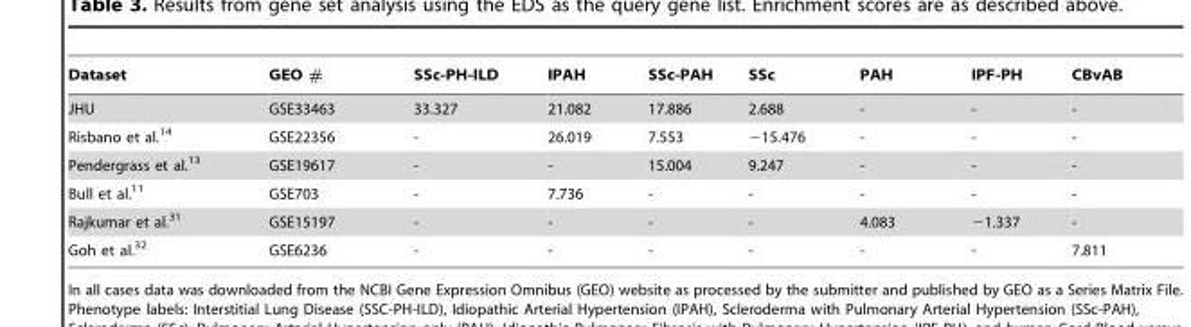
<table><thead><tr><td>Dataset</td><td>GEO #</td><td>SSc-PH-ILD</td><td>IPAH</td><td>SSc-PAH</td><td>SSc</td><td>PAH</td><td>IPF-PH</td><td>CBvAB</td></tr></thead><tbody><tr><td>JHU</td><td>GSE33463</td><td>33.327</td><td>21.082</td><td>17.886</td><td>2.688</td><td>-</td><td>-</td><td>-</td></tr><tr><td>Risbano et al.<sup>14</sup></td><td>GSE22356</td><td>-</td><td>26.019</td><td>7.553</td><td>−15.476</td><td>-</td><td>-</td><td>-</td></tr><tr><td>Pendergrass et al.<sup>13</sup></td><td>GSE19617</td><td>-</td><td>-</td><td>15.004</td><td>9.247</td><td>-</td><td>-</td><td>-</td></tr><tr><td>Bull et al.<sup>11</sup></td><td>GSE703</td><td>-</td><td>7.736</td><td>-</td><td>-</td><td>-</td><td>-</td><td>-</td></tr><tr><td>Rajkumar et al.<sup>31</sup></td><td>GSE15197</td><td>-</td><td>-</td><td>-</td><td>-</td><td>4.083</td><td>−1.337</td><td>-</td></tr><tr><td>Goh et al.<sup>32</sup></td><td>GSE6236</td><td>-</td><td>-</td><td>-</td><td>-</td><td>-</td><td>-</td><td>7.811</td></tr></tbody></table>